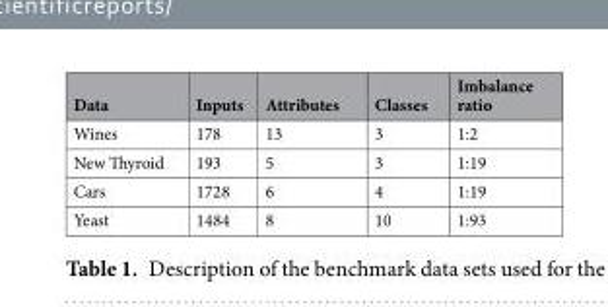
<table><thead><tr><td>Data</td><td>Inputs</td><td>Attributes</td><td>Classes</td><td>Imbalance ratio</td></tr></thead><tbody><tr><td>Wines</td><td>178</td><td>13</td><td>3</td><td>1:2</td></tr><tr><td>New Thyroid</td><td>193</td><td>5</td><td>3</td><td>1:19</td></tr><tr><td>Cars</td><td>1728</td><td>6</td><td>4</td><td>1:19</td></tr><tr><td>Yeast</td><td>1484</td><td>8</td><td>10</td><td>1:93</td></tr></tbody></table>